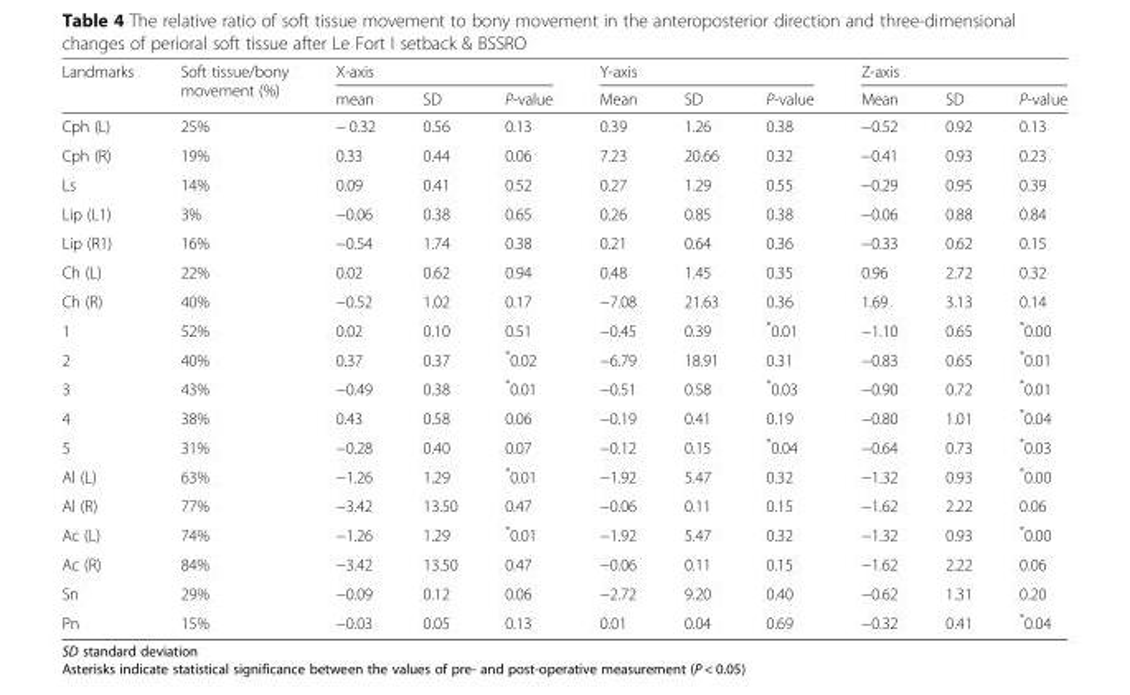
<table><thead><tr><td rowspan="2">Landmarks</td><td rowspan="2">Soft tissue/bony movement (%)</td><td colspan="3">X-axis</td><td colspan="3">Y-axis</td><td colspan="3">Z-axis</td></tr><tr><td>mean</td><td>SD</td><td>P-value</td><td>Mean</td><td>SD</td><td>P-value</td><td>Mean</td><td>SD</td><td>P-value</td></tr></thead><tbody><tr><td>Cph (L)</td><td>25%</td><td>− 0.32</td><td>0.56</td><td>0.13</td><td>0.39</td><td>1.26</td><td>0.38</td><td>−0.52</td><td>0.92</td><td>0.13</td></tr><tr><td>Cph (R)</td><td>19%</td><td>0.33</td><td>0.44</td><td>0.06</td><td>7.23</td><td>20.66</td><td>0.32</td><td>−0.41</td><td>0.93</td><td>0.23</td></tr><tr><td>Ls</td><td>14%</td><td>0.09</td><td>0.41</td><td>0.52</td><td>0.27</td><td>1.29</td><td>0.55</td><td>−0.29</td><td>0.95</td><td>0.39</td></tr><tr><td>Lip (L1)</td><td>3%</td><td>−0.06</td><td>0.38</td><td>0.65</td><td>0.26</td><td>0.85</td><td>0.38</td><td>−0.06</td><td>0.88</td><td>0.84</td></tr><tr><td>Lip (R1)</td><td>16%</td><td>−0.54</td><td>1.74</td><td>0.38</td><td>0.21</td><td>0.64</td><td>0.36</td><td>−0.33</td><td>0.62</td><td>0.15</td></tr><tr><td>Ch (L)</td><td>22%</td><td>0.02</td><td>0.62</td><td>0.94</td><td>0.48</td><td>1.45</td><td>0.35</td><td>0.96</td><td>2.72</td><td>0.32</td></tr><tr><td>Ch (R)</td><td>40%</td><td>−0.52</td><td>1.02</td><td>0.17</td><td>−7.08</td><td>21.63</td><td>0.36</td><td>1.69</td><td>3.13</td><td>0.14</td></tr><tr><td>1</td><td>52%</td><td>0.02</td><td>0.10</td><td>0.51</td><td>−0.45</td><td>0.39</td><td>*0.01</td><td>−1.10</td><td>0.65</td><td>*0.00</td></tr><tr><td>2</td><td>40%</td><td>0.37</td><td>0.37</td><td>*0.02</td><td>−6.79</td><td>18.91</td><td>0.31</td><td>−0.83</td><td>0.65</td><td>*0.01</td></tr><tr><td>3</td><td>43%</td><td>−0.49</td><td>0.38</td><td>*0.01</td><td>−0.51</td><td>0.58</td><td>*0.03</td><td>−0.90</td><td>0.72</td><td>*0.01</td></tr><tr><td>4</td><td>38%</td><td>0.43</td><td>0.58</td><td>0.06</td><td>−0.19</td><td>0.41</td><td>0.19</td><td>−0.80</td><td>1.01</td><td>*0.04</td></tr><tr><td>5</td><td>31%</td><td>−0.28</td><td>0.40</td><td>0.07</td><td>−0.12</td><td>0.15</td><td>*0.04</td><td>−0.64</td><td>0.73</td><td>*0.03</td></tr><tr><td>Al (L)</td><td>63%</td><td>−1.26</td><td>1.29</td><td>*0.01</td><td>−1.92</td><td>5.47</td><td>0.32</td><td>−1.32</td><td>0.93</td><td>*0.00</td></tr><tr><td>Al (R)</td><td>77%</td><td>−3.42</td><td>13.50</td><td>0.47</td><td>−0.06</td><td>0.11</td><td>0.15</td><td>−1.62</td><td>2.22</td><td>0.06</td></tr><tr><td>Ac (L)</td><td>74%</td><td>−1.26</td><td>1.29</td><td>*0.01</td><td>−1.92</td><td>5.47</td><td>0.32</td><td>−1.32</td><td>0.93</td><td>*0.00</td></tr><tr><td>Ac (R)</td><td>84%</td><td>−3.42</td><td>13.50</td><td>0.47</td><td>−0.06</td><td>0.11</td><td>0.15</td><td>−1.62</td><td>2.22</td><td>0.06</td></tr><tr><td>Sn</td><td>29%</td><td>−0.09</td><td>0.12</td><td>0.06</td><td>−2.72</td><td>9.20</td><td>0.40</td><td>−0.62</td><td>1.31</td><td>0.20</td></tr><tr><td>Pn</td><td>15%</td><td>−0.03</td><td>0.05</td><td>0.13</td><td>0.01</td><td>0.04</td><td>0.69</td><td>−0.32</td><td>0.41</td><td>*0.04</td></tr></tbody></table>